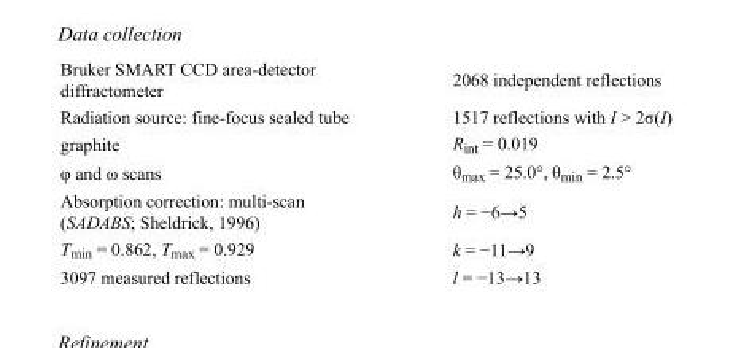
<table><tbody><tr><td>Bruker SMART CCD area-detector diffractometer</td><td>2068 independent reflections</td></tr><tr><td>Radiation source: fine-focus sealed tube</td><td>1517 reflections with I &gt; 2σ(I)</td></tr><tr><td>graphite</td><td>R<sub>int</sub> = 0.019</td></tr><tr><td>φ and ω scans</td><td>θ<sub>max</sub> = 25.0°, θ<sub>min</sub> = 2.5°</td></tr><tr><td>Absorption correction: multi-scan (SADABS; Sheldrick, 1996)</td><td>h = −6→5</td></tr><tr><td>T<sub>min</sub> = 0.862, T<sub>max</sub> = 0.929</td><td>k = −11→9</td></tr><tr><td>3097 measured reflections</td><td>l = −13→13</td></tr></tbody></table>